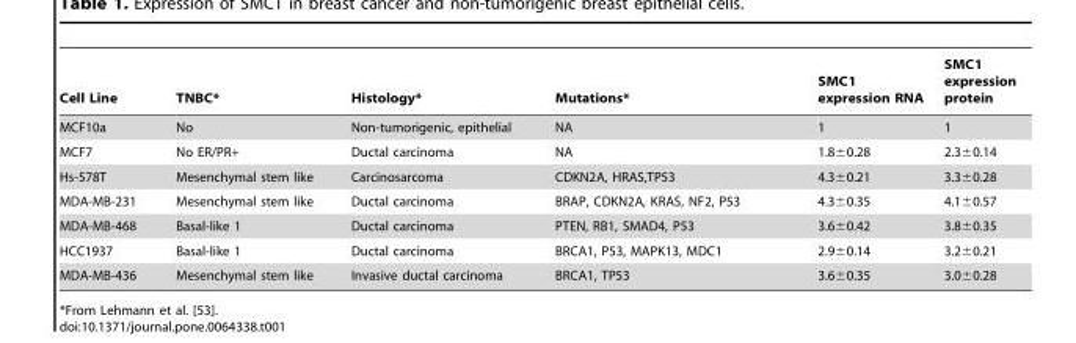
<table><thead><tr><td>Cell Line</td><td>TNBC*</td><td>Histology*</td><td>Mutations*</td><td>SMC1 expression RNA</td><td>SMC1 expression protein</td></tr></thead><tbody><tr><td>MCF10a</td><td>No</td><td>Non-tumorigenic, epithelial</td><td>NA</td><td>1</td><td>1</td></tr><tr><td>MCF7</td><td>No ER/PR+</td><td>Ductal carcinoma</td><td>NA</td><td>1.8±0.28</td><td>2.3±0.14</td></tr><tr><td>Hs-578T</td><td>Mesenchymal stem like</td><td>Carcinosarcoma</td><td>CDKN2A, HRAS,TP53</td><td>4.3±0.21</td><td>3.3±0.28</td></tr><tr><td>MDA-MB-231</td><td>Mesenchymal stem like</td><td>Ductal carcinoma</td><td>BRAP, CDKN2A, KRAS, NF2, P53</td><td>4.3±0.35</td><td>4.1±0.57</td></tr><tr><td>MDA-MB-468</td><td>Basal-like 1</td><td>Ductal carcinoma</td><td>PTEN, RB1, SMAD4, P53</td><td>3.6±0.42</td><td>3.8±0.35</td></tr><tr><td>HCC1937</td><td>Basal-like 1</td><td>Ductal carcinoma</td><td>BRCA1, P53, MAPK13, MDC1</td><td>2.9±0.14</td><td>3.2±0.21</td></tr><tr><td>MDA-MB-436</td><td>Mesenchymal stem like</td><td>Invasive ductal carcinoma</td><td>BRCA1, TP53</td><td>3.6±0.35</td><td>3.0±0.28</td></tr></tbody></table>